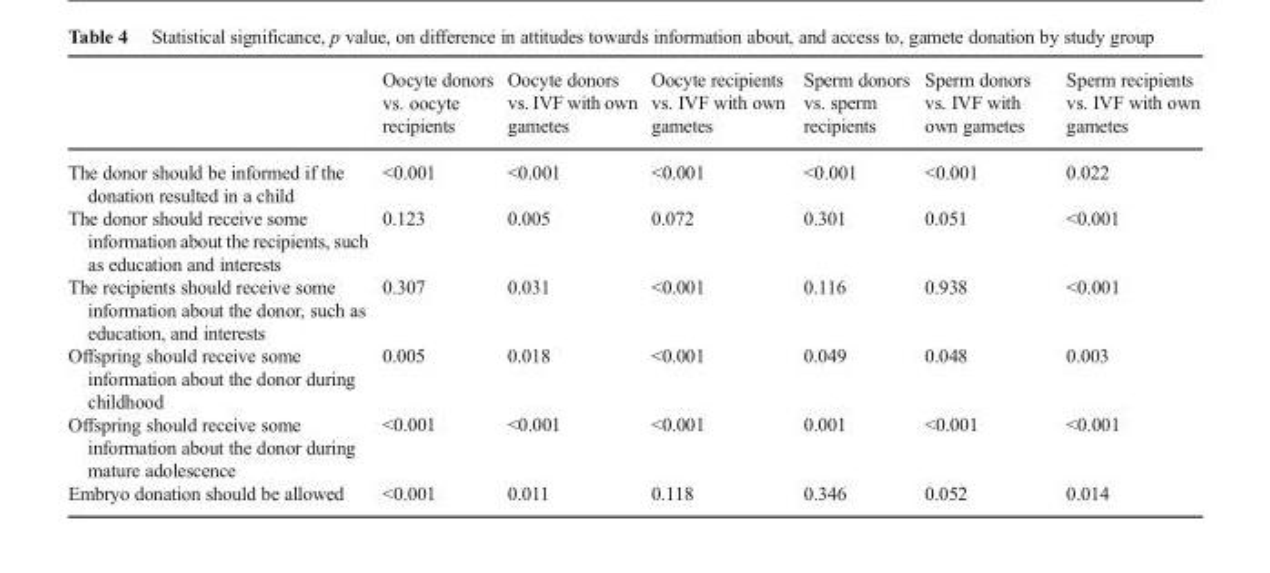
<table><thead><tr><td></td><td>Oocyte donors vs. oocyte recipients</td><td>Oocyte donors vs. IVF with own gametes</td><td>Oocyte recipients vs. IVF with own gametes</td><td>Sperm donors vs. sperm recipients</td><td>Sperm donors vs. IVF with own gametes</td><td>Sperm recipients vs. IVF with own gametes</td></tr></thead><tbody><tr><td>The donor should be informed if the donation resulted in a child</td><td>&lt;0.001</td><td>&lt;0.001</td><td>&lt;0.001</td><td>&lt;0.001</td><td>&lt;0.001</td><td>0.022</td></tr><tr><td>The donor should receive some information about the recipients, such as education and interests</td><td>0.123</td><td>0.005</td><td>0.072</td><td>0.301</td><td>0.051</td><td>&lt;0.001</td></tr><tr><td>The recipients should receive some information about the donor, such as education, and interests</td><td>0.307</td><td>0.031</td><td>&lt;0.001</td><td>0.116</td><td>0.938</td><td>&lt;0.001</td></tr><tr><td>Offspring should receive some information about the donor during childhood</td><td>0.005</td><td>0.018</td><td>&lt;0.001</td><td>0.049</td><td>0.048</td><td>0.003</td></tr><tr><td>Offspring should receive some information about the donor during mature adolescence</td><td>&lt;0.001</td><td>&lt;0.001</td><td>&lt;0.001</td><td>0.001</td><td>&lt;0.001</td><td>&lt;0.001</td></tr><tr><td>Embryo donation should be allowed</td><td>&lt;0.001</td><td>0.011</td><td>0.118</td><td>0.346</td><td>0.052</td><td>0.014</td></tr></tbody></table>